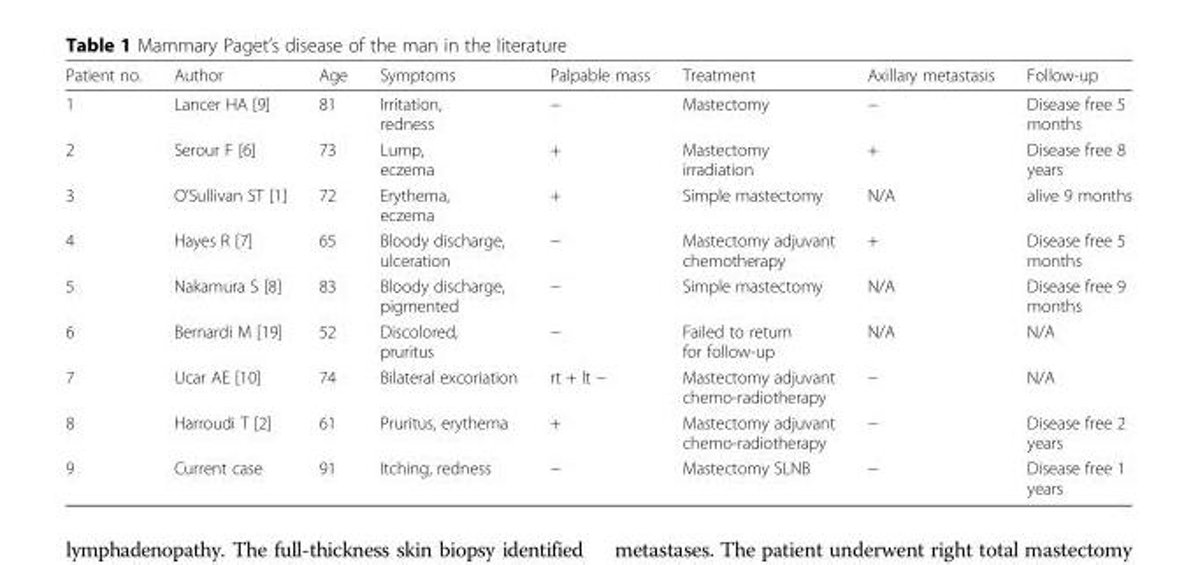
<table><thead><tr><td>Patient no.</td><td>Author</td><td>Age</td><td>Symptoms</td><td>Palpable mass</td><td>Treatment</td><td>Axillary metastasis</td><td>Follow-up</td></tr></thead><tbody><tr><td>1</td><td>Lancer HA [9]</td><td>81</td><td>Irritation, redness</td><td>−</td><td>Mastectomy</td><td>−</td><td>Disease free 5 months</td></tr><tr><td>2</td><td>Serour F [6]</td><td>73</td><td>Lump, eczema</td><td>+</td><td>Mastectomy irradiation</td><td>+</td><td>Disease free 8 years</td></tr><tr><td>3</td><td>O’Sullivan ST [1]</td><td>72</td><td>Erythema, eczema</td><td>+</td><td>Simple mastectomy</td><td>N/A</td><td>alive 9 months</td></tr><tr><td>4</td><td>Hayes R [7]</td><td>65</td><td>Bloody discharge, ulceration</td><td>−</td><td>Mastectomy adjuvant chemotherapy</td><td>+</td><td>Disease free 5 months</td></tr><tr><td>5</td><td>Nakamura S [8]</td><td>83</td><td>Bloody discharge, pigmented</td><td>−</td><td>Simple mastectomy</td><td>N/A</td><td>Disease free 9 months</td></tr><tr><td>6</td><td>Bernardi M [19]</td><td>52</td><td>Discolored, pruritus</td><td>−</td><td>Failed to return for follow-up</td><td>N/A</td><td>N/A</td></tr><tr><td>7</td><td>Ucar AE [10]</td><td>74</td><td>Bilateral excoriation</td><td>rt + lt −</td><td>Mastectomy adjuvant chemo-radiotherapy</td><td>−</td><td>N/A</td></tr><tr><td>8</td><td>Harroudi T [2]</td><td>61</td><td>Pruritus, erythema</td><td>+</td><td>Mastectomy adjuvant chemo-radiotherapy</td><td>−</td><td>Disease free 2 years</td></tr><tr><td>9</td><td>Current case</td><td>91</td><td>Itching, redness</td><td>−</td><td>Mastectomy SLNB</td><td>−</td><td>Disease free 1 years</td></tr></tbody></table>